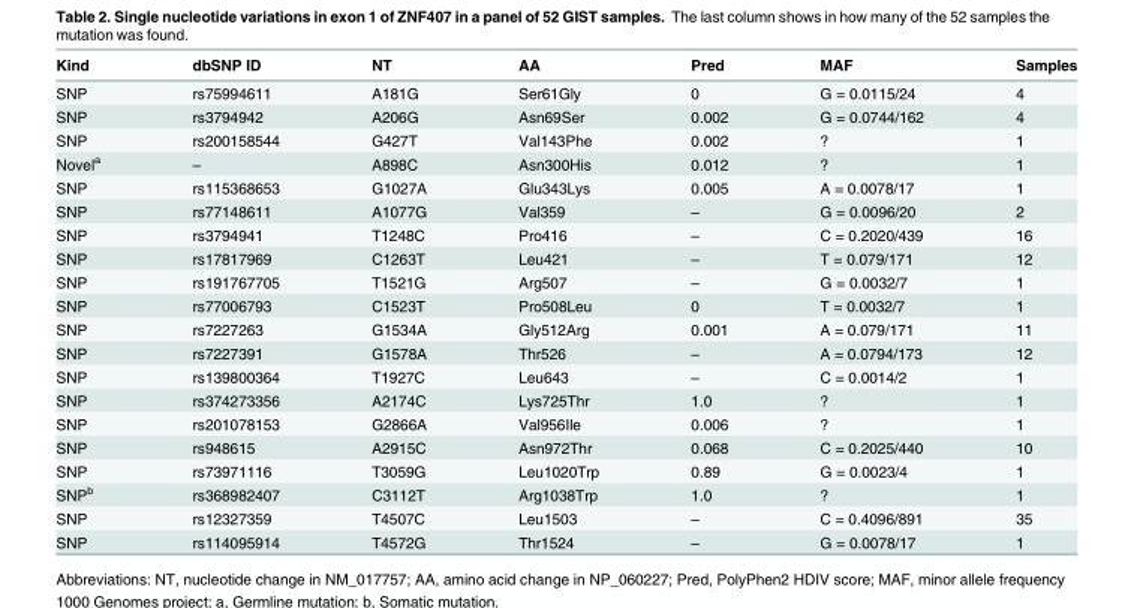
<table><thead><tr><td>Kind</td><td>dbSNP ID</td><td>NT</td><td>AA</td><td>Pred</td><td>MAF</td><td>Samples</td></tr></thead><tbody><tr><td>SNP</td><td>rs75994611</td><td>A181G</td><td>Ser61Gly</td><td>0</td><td>G = 0.0115/24</td><td>4</td></tr><tr><td>SNP</td><td>rs3794942</td><td>A206G</td><td>Asn69Ser</td><td>0.002</td><td>G = 0.0744/162</td><td>4</td></tr><tr><td>SNP</td><td>rs200158544</td><td>G427T</td><td>Val143Phe</td><td>0.002</td><td>?</td><td>1</td></tr><tr><td>Novel<sup>a</sup></td><td>–</td><td>A898C</td><td>Asn300His</td><td>0.012</td><td>?</td><td>1</td></tr><tr><td>SNP</td><td>rs115368653</td><td>G1027A</td><td>Glu343Lys</td><td>0.005</td><td>A = 0.0078/17</td><td>1</td></tr><tr><td>SNP</td><td>rs77148611</td><td>A1077G</td><td>Val359</td><td>–</td><td>G = 0.0096/20</td><td>2</td></tr><tr><td>SNP</td><td>rs3794941</td><td>T1248C</td><td>Pro416</td><td>–</td><td>C = 0.2020/439</td><td>16</td></tr><tr><td>SNP</td><td>rs17817969</td><td>C1263T</td><td>Leu421</td><td>–</td><td>T = 0.079/171</td><td>12</td></tr><tr><td>SNP</td><td>rs191767705</td><td>T1521G</td><td>Arg507</td><td>–</td><td>G = 0.0032/7</td><td>1</td></tr><tr><td>SNP</td><td>rs77006793</td><td>C1523T</td><td>Pro508Leu</td><td>0</td><td>T = 0.0032/7</td><td>1</td></tr><tr><td>SNP</td><td>rs7227263</td><td>G1534A</td><td>Gly512Arg</td><td>0.001</td><td>A = 0.079/171</td><td>11</td></tr><tr><td>SNP</td><td>rs7227391</td><td>G1578A</td><td>Thr526</td><td>–</td><td>A = 0.0794/173</td><td>12</td></tr><tr><td>SNP</td><td>rs139800364</td><td>T1927C</td><td>Leu643</td><td>–</td><td>C = 0.0014/2</td><td>1</td></tr><tr><td>SNP</td><td>rs374273356</td><td>A2174C</td><td>Lys725Thr</td><td>1.0</td><td>?</td><td>1</td></tr><tr><td>SNP</td><td>rs201078153</td><td>G2866A</td><td>Val956Ile</td><td>0.006</td><td>?</td><td>1</td></tr><tr><td>SNP</td><td>rs948615</td><td>A2915C</td><td>Asn972Thr</td><td>0.068</td><td>C = 0.2025/440</td><td>10</td></tr><tr><td>SNP</td><td>rs73971116</td><td>T3059G</td><td>Leu1020Trp</td><td>0.89</td><td>G = 0.0023/4</td><td>1</td></tr><tr><td>SNP<sup>b</sup></td><td>rs368982407</td><td>C3112T</td><td>Arg1038Trp</td><td>1.0</td><td>?</td><td>1</td></tr><tr><td>SNP</td><td>rs12327359</td><td>T4507C</td><td>Leu1503</td><td>–</td><td>C = 0.4096/891</td><td>35</td></tr><tr><td>SNP</td><td>rs114095914</td><td>T4572G</td><td>Thr1524</td><td>–</td><td>G = 0.0078/17</td><td>1</td></tr></tbody></table>